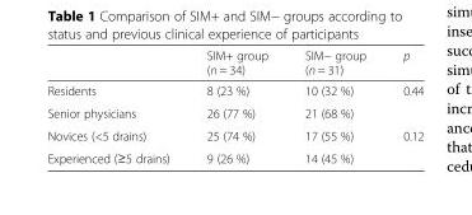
<table><thead><tr><td></td><td>SIM+ group (n = 34)</td><td>SIM− group (n = 31)</td><td>p</td></tr></thead><tbody><tr><td>Residents</td><td>8 (23 %)</td><td>10 (32 %)</td><td rowspan="2">0.44</td></tr><tr><td>Senior physicians</td><td>26 (77 %)</td><td>21 (68 %)</td></tr><tr><td>Novices (&lt;5 drains)</td><td>25 (74 %)</td><td>17 (55 %)</td><td rowspan="2">0.12</td></tr><tr><td>Experienced (≥5 drains)</td><td>9 (26 %)</td><td>14 (45 %)</td></tr></tbody></table>